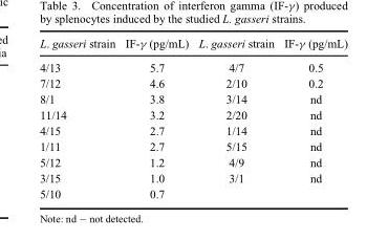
<table><thead><tr><td>L. gasseri strain</td><td>IF-γ (pg/mL)</td><td>L. gasseri strain</td><td>IF-γ (pg/mL)</td></tr></thead><tbody><tr><td>4/13</td><td>5.7</td><td>4/7</td><td>0.5</td></tr><tr><td>7/12</td><td>4.6</td><td>2/10</td><td>0.2</td></tr><tr><td>8/1</td><td>3.8</td><td>3/14</td><td>nd</td></tr><tr><td>11/14</td><td>3.2</td><td>2/20</td><td>nd</td></tr><tr><td>4/15</td><td>2.7</td><td>1/14</td><td>nd</td></tr><tr><td>1/11</td><td>2.7</td><td>5/15</td><td>nd</td></tr><tr><td>5/12</td><td>1.2</td><td>4/9</td><td>nd</td></tr><tr><td>3/15</td><td>1.0</td><td>3/1</td><td>nd</td></tr><tr><td>5/10</td><td>0.7</td><td></td><td></td></tr></tbody></table>